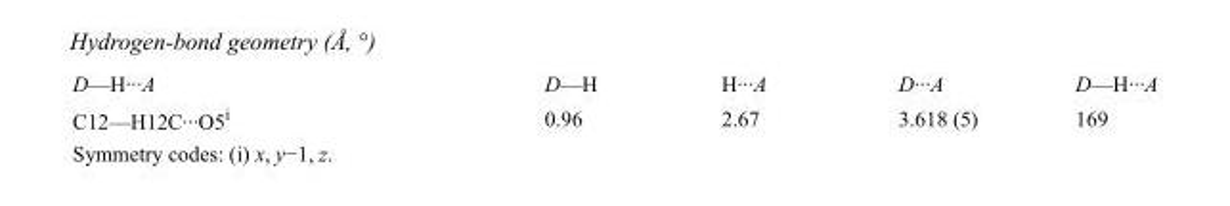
<table><tbody><tr><td>D—H···A</td><td>D—H</td><td>H···A</td><td>D···A</td><td>D—H···A</td></tr><tr><td>C12—H12C···O5<sup>i</sup></td><td>0.96</td><td>2.67</td><td>3.618 (5)</td><td>169</td></tr></tbody></table>